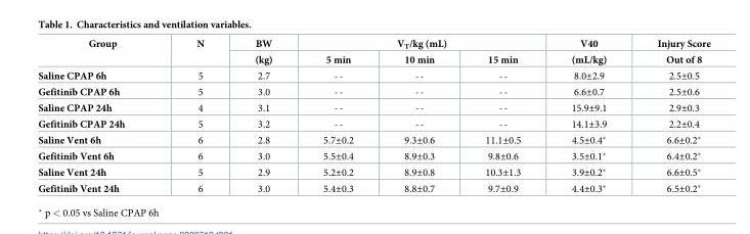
<table><thead><tr><td rowspan="2">Group</td><td rowspan="2">N</td><td rowspan="2">BW (kg)</td><td colspan="3">V<sub>T</sub>/kg (mL)</td><td rowspan="2">V40 (mL/kg)</td><td rowspan="2">Injury Score Out of 8</td></tr><tr><td>5 min</td><td>10 min</td><td>15 min</td></tr></thead><tbody><tr><td>Saline CPAP 6h</td><td>5</td><td>2.7</td><td>--</td><td>--</td><td>--</td><td>8.0±2.9</td><td>2.5±0.5</td></tr><tr><td>Gefitinib CPAP 6h</td><td>5</td><td>3.0</td><td>--</td><td>--</td><td>--</td><td>6.6±0.7</td><td>2.5±0.6</td></tr><tr><td>Saline CPAP 24h</td><td>4</td><td>3.1</td><td>--</td><td>--</td><td>--</td><td>15.9±9.1</td><td>2.9±0.3</td></tr><tr><td>Gefitinib CPAP 24h</td><td>5</td><td>3.2</td><td>--</td><td>--</td><td>--</td><td>14.1±3.9</td><td>2.2±0.4</td></tr><tr><td>Saline Vent 6h</td><td>6</td><td>2.8</td><td>5.7±0.2</td><td>9.3±0.6</td><td>11.1±0.5</td><td>4.5±0.4*</td><td>6.6±0.2*</td></tr><tr><td>Gefitinib Vent 6h</td><td>6</td><td>3.0</td><td>5.5±0.4</td><td>8.9±0.3</td><td>9.8±0.6</td><td>3.5±0.1*</td><td>6.4±0.2*</td></tr><tr><td>Saline Vent 24h</td><td>5</td><td>2.9</td><td>5.2±0.2</td><td>8.9±0.8</td><td>10.3±1.3</td><td>3.9±0.2*</td><td>6.6±0.5*</td></tr><tr><td>Gefitinib Vent 24h</td><td>6</td><td>3.0</td><td>5.4±0.3</td><td>8.8±0.7</td><td>9.7±0.9</td><td>4.4±0.3*</td><td>6.5±0.2*</td></tr></tbody></table>